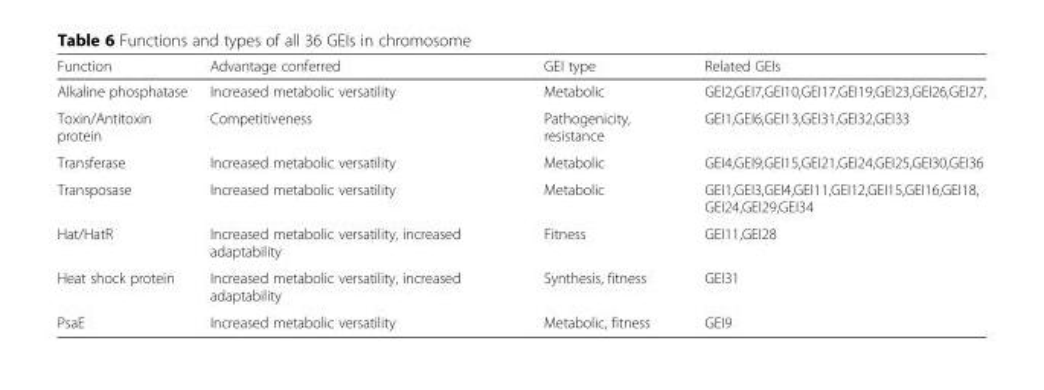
<table><thead><tr><td>Function</td><td>Advantage conferred</td><td>GEI type</td><td>Related GEIs</td></tr></thead><tbody><tr><td>Alkaline phosphatase</td><td>Increased metabolic versatility</td><td>Metabolic</td><td>GEI2,GEI7,GEI10,GEI17,GEI19,GEI23,GEI26,GEI27,</td></tr><tr><td>Toxin/Antitoxin protein</td><td>Competitiveness</td><td>Pathogenicity, resistance</td><td>GEI1,GEI6,GEI13,GEI31,GEI32,GEI33</td></tr><tr><td>Transferase</td><td>Increased metabolic versatility</td><td>Metabolic</td><td>GEI4,GEI9,GEI15,GEI21,GEI24,GEI25,GEI30,GEI36</td></tr><tr><td>Transposase</td><td>Increased metabolic versatility</td><td>Metabolic</td><td>GEI1,GEI3,GEI4,GEI11,GEI12,GEI15,GEI16,GEI18, GEI24,GEI29,GEI34</td></tr><tr><td>Hat/HatR</td><td>Increased metabolic versatility, increased adaptability</td><td>Fitness</td><td>GEI11,GEI28</td></tr><tr><td>Heat shock protein</td><td>Increased metabolic versatility, increased adaptability</td><td>Synthesis, fitness</td><td>GEI31</td></tr><tr><td>PsaE</td><td>Increased metabolic versatility</td><td>Metabolic, fitness</td><td>GEI9</td></tr></tbody></table>